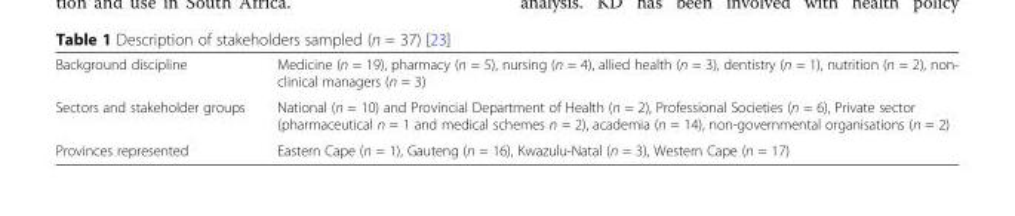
<table><tbody><tr><td>Background discipline</td><td>Medicine (n = 19), pharmacy (n = 5), nursing (n = 4), allied health (n = 3), dentistry (n = 1), nutrition (n = 2), non- clinical managers (n = 3)</td></tr><tr><td>Sectors and stakeholder groups</td><td>National (n = 10) and Provincial Department of Health (n = 2), Professional Societies (n = 6), Private sector (pharmaceutical n = 1 and medical schemes n = 2), academia (n = 14), non-governmental organisations (n = 2)</td></tr><tr><td>Provinces represented</td><td>Eastern Cape (n = 1), Gauteng (n = 16), Kwazulu-Natal (n = 3), Western Cape (n = 17)</td></tr></tbody></table>